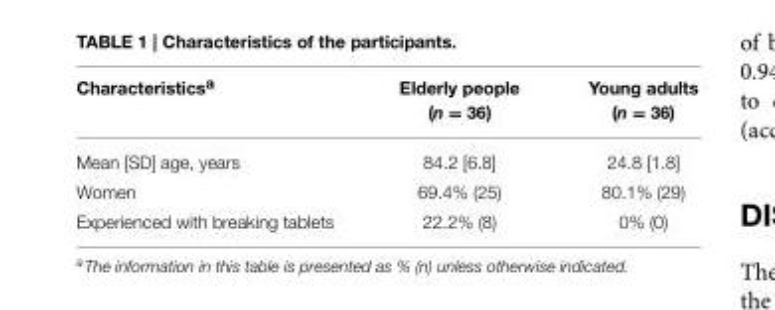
<table><thead><tr><td>Characteristics<sup>a</sup></td><td>Elderly people (n = 36)</td><td>Young adults (n = 36)</td></tr></thead><tbody><tr><td>Mean [SD] age, years</td><td>84.2 [6.8]</td><td>24.8 [1.8]</td></tr><tr><td>Women</td><td>69.4% (25)</td><td>80.1% (29)</td></tr><tr><td>Experienced with breaking tablets</td><td>22.2% (8)</td><td>0% (0)</td></tr></tbody></table>